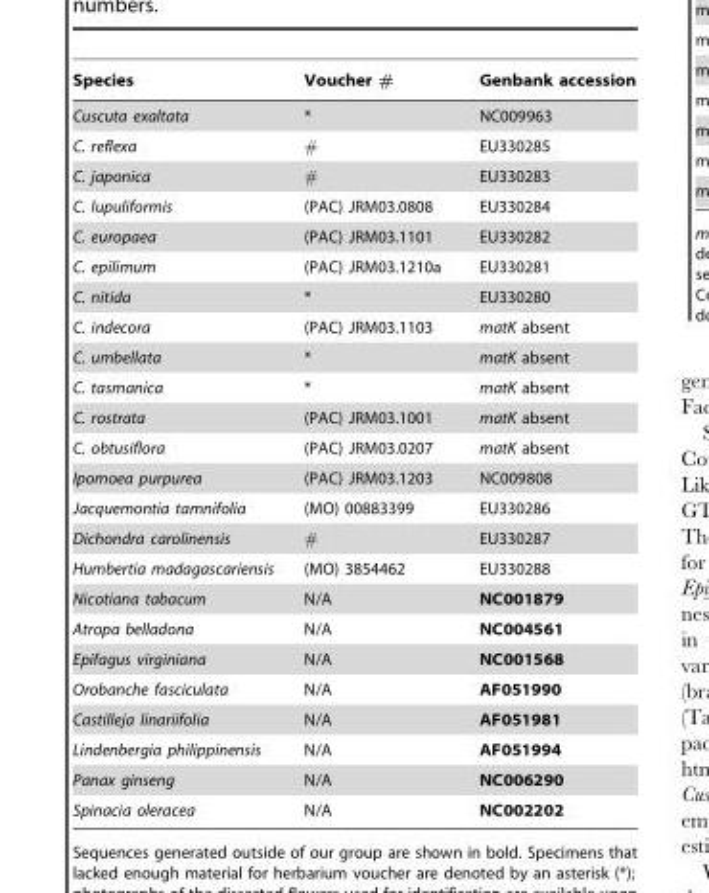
<table><thead><tr><td>Species</td><td>Voucher #</td><td>Genbank accession</td></tr></thead><tbody><tr><td>Cuscuta exaltata</td><td>*</td><td>NC009963</td></tr><tr><td>C. reflexa</td><td>#</td><td>EU330285</td></tr><tr><td>C. japonica</td><td>#</td><td>EU330283</td></tr><tr><td>C. lupuliformis</td><td>(PAC) JRM03.0808</td><td>EU330284</td></tr><tr><td>C. europaea</td><td>(PAC) JRM03.1101</td><td>EU330282</td></tr><tr><td>C. epilimum</td><td>(PAC) JRM03.1210a</td><td>EU330281</td></tr><tr><td>C. nitida</td><td>*</td><td>EU330280</td></tr><tr><td>C. indecora</td><td>(PAC) JRM03.1103</td><td>matK absent</td></tr><tr><td>C. umbellata</td><td>*</td><td>matK absent</td></tr><tr><td>C. tasmanica</td><td>*</td><td>matK absent</td></tr><tr><td>C. rostrata</td><td>(PAC) JRM03.1001</td><td>matK absent</td></tr><tr><td>C. obtusiflora</td><td>(PAC) JRM03.0207</td><td>matK absent</td></tr><tr><td>Ipomoea purpurea</td><td>(PAC) JRM03.1203</td><td>NC009808</td></tr><tr><td>Jacquemontia tamnifolia</td><td>(MO) 00883399</td><td>EU330286</td></tr><tr><td>Dichondra carolinensis</td><td>#</td><td>EU330287</td></tr><tr><td>Humbertia madagascariensis</td><td>(MO) 3854462</td><td>EU330288</td></tr><tr><td>Nicotiana tabacum</td><td>N/A</td><td>NC001879</td></tr><tr><td>Atropa belladona</td><td>N/A</td><td>NC004561</td></tr><tr><td>Epifagus virginiana</td><td>N/A</td><td>NC001568</td></tr><tr><td>Orobanche fasciculata</td><td>N/A</td><td>AF051990</td></tr><tr><td>Castilleja linariifolia</td><td>N/A</td><td>AF051981</td></tr><tr><td>Lindenbergia philippinensis</td><td>N/A</td><td>AF051994</td></tr><tr><td>Panax ginseng</td><td>N/A</td><td>NC006290</td></tr><tr><td>Spinacia oleracea</td><td>N/A</td><td>NC002202</td></tr></tbody></table>